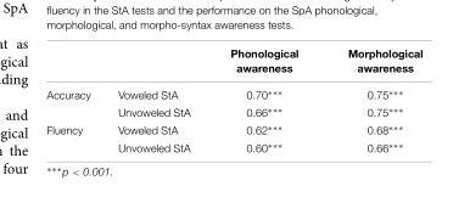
<table><thead><tr><td></td><td></td><td>Phonological awareness</td><td>Morphological awareness</td></tr></thead><tbody><tr><td rowspan="2">Accuracy</td><td>Voweled StA</td><td>0.70∗∗∗</td><td>0.75∗∗∗</td></tr><tr><td>Unvoweled StA</td><td>0.66∗∗∗</td><td>0.75∗∗∗</td></tr><tr><td rowspan="2">Fluency</td><td>Voweled StA</td><td>0.62∗∗∗</td><td>0.68∗∗∗</td></tr><tr><td>Unvoweled StA</td><td>0.60∗∗∗</td><td>0.66∗∗∗</td></tr></tbody></table>